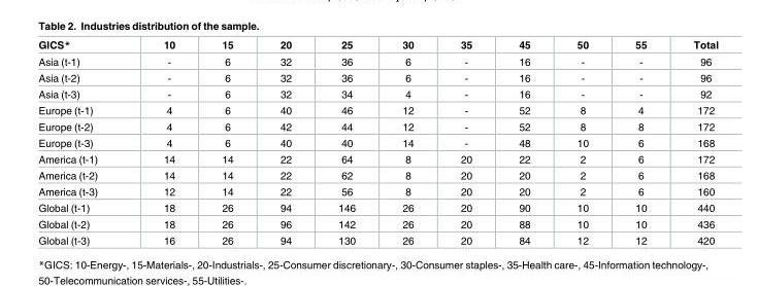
<table><thead><tr><td>GICS*</td><td>10</td><td>15</td><td>20</td><td>25</td><td>30</td><td>35</td><td>45</td><td>50</td><td>55</td><td>Total</td></tr></thead><tbody><tr><td>Asia (t-1)</td><td>-</td><td>6</td><td>32</td><td>36</td><td>6</td><td>-</td><td>16</td><td>-</td><td>-</td><td>96</td></tr><tr><td>Asia (t-2)</td><td>-</td><td>6</td><td>32</td><td>36</td><td>6</td><td>-</td><td>16</td><td>-</td><td>-</td><td>96</td></tr><tr><td>Asia (t-3)</td><td>-</td><td>6</td><td>32</td><td>34</td><td>4</td><td>-</td><td>16</td><td>-</td><td>-</td><td>92</td></tr><tr><td>Europe (t-1)</td><td>4</td><td>6</td><td>40</td><td>46</td><td>12</td><td>-</td><td>52</td><td>8</td><td>4</td><td>172</td></tr><tr><td>Europe (t-2)</td><td>4</td><td>6</td><td>42</td><td>44</td><td>12</td><td>-</td><td>52</td><td>8</td><td>8</td><td>172</td></tr><tr><td>Europe (t-3)</td><td>4</td><td>6</td><td>40</td><td>40</td><td>14</td><td>-</td><td>48</td><td>10</td><td>6</td><td>168</td></tr><tr><td>America (t-1)</td><td>14</td><td>14</td><td>22</td><td>64</td><td>8</td><td>20</td><td>22</td><td>2</td><td>6</td><td>172</td></tr><tr><td>America (t-2)</td><td>14</td><td>14</td><td>22</td><td>62</td><td>8</td><td>20</td><td>20</td><td>2</td><td>6</td><td>168</td></tr><tr><td>America (t-3)</td><td>12</td><td>14</td><td>22</td><td>56</td><td>8</td><td>20</td><td>20</td><td>2</td><td>6</td><td>160</td></tr><tr><td>Global (t-1)</td><td>18</td><td>26</td><td>94</td><td>146</td><td>26</td><td>20</td><td>90</td><td>10</td><td>10</td><td>440</td></tr><tr><td>Global (t-2)</td><td>18</td><td>26</td><td>96</td><td>142</td><td>26</td><td>20</td><td>88</td><td>10</td><td>10</td><td>436</td></tr><tr><td>Global (t-3)</td><td>16</td><td>26</td><td>94</td><td>130</td><td>26</td><td>20</td><td>84</td><td>12</td><td>12</td><td>420</td></tr></tbody></table>